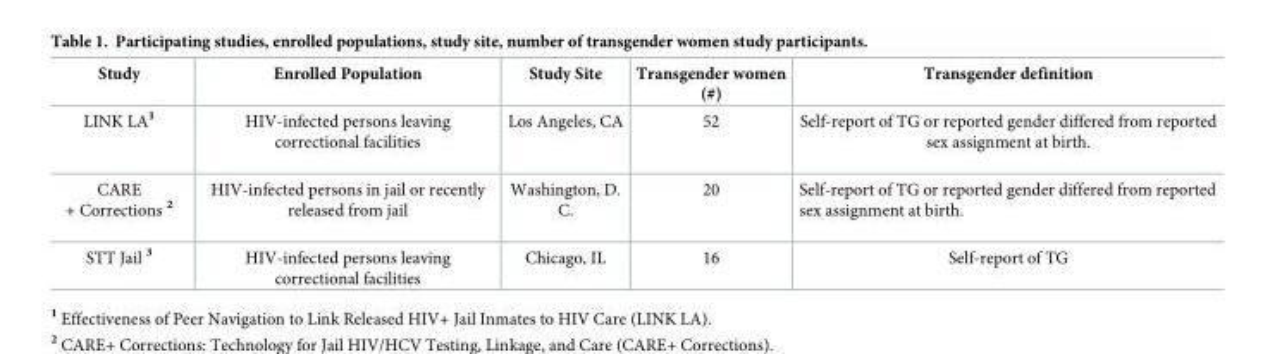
<table><thead><tr><td>Study</td><td>Enrolled Population</td><td>Study Site</td><td>Transgender women (#)</td><td>Transgender definition</td></tr></thead><tbody><tr><td>LINK LA<sup>1</sup></td><td>HIV-infected persons leaving correctional facilities</td><td>Los Angeles, CA</td><td>52</td><td>Self-report of TG or reported gender differed from reported sex assignment at birth.</td></tr><tr><td>CARE + Corrections <sup>2</sup></td><td>HIV-infected persons in jail or recently released from jail</td><td>Washington, D. C.</td><td>20</td><td>Self-report of TG or reported gender differed from reported sex assignment at birth.</td></tr><tr><td>STT Jail <sup>3</sup></td><td>HIV-infected persons leaving correctional facilities</td><td>Chicago, IL</td><td>16</td><td>Self-report of TG</td></tr></tbody></table>